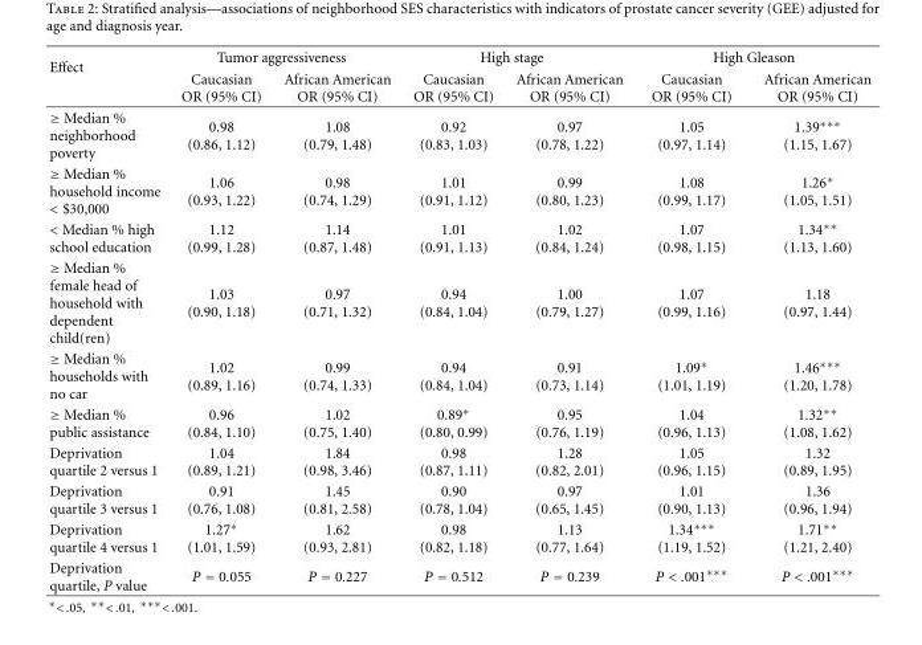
<table><thead><tr><td rowspan="2">Effect</td><td colspan="2">Tumor aggressiveness</td><td colspan="2">High stage</td><td colspan="2">High Gleason</td></tr><tr><td>Caucasian OR (95% CI)</td><td>African American OR (95% CI)</td><td>Caucasian OR (95% CI)</td><td>African American OR (95% CI)</td><td>Caucasian OR (95% CI)</td><td>African American OR (95% CI)</td></tr></thead><tbody><tr><td>≥ Median % neighborhood poverty</td><td>0.98 (0.86, 1.12)</td><td>1.08 (0.79, 1.48)</td><td>0.92 (0.83, 1.03)</td><td>0.97 (0.78, 1.22)</td><td>1.05 (0.97, 1.14)</td><td>1.39∗∗∗ (1.15, 1.67)</td></tr><tr><td>≥ Median % household income &lt; $30,000</td><td>1.06 (0.93, 1.22)</td><td>0.98 (0.74, 1.29)</td><td>1.01 (0.91, 1.12)</td><td>0.99 (0.80, 1.23)</td><td>1.08 (0.99, 1.17)</td><td>1.26∗ (1.05, 1.51)</td></tr><tr><td>&lt; Median % high school education</td><td>1.12 (0.99, 1.28)</td><td>1.14 (0.87, 1.48)</td><td>1.01 (0.91, 1.13)</td><td>1.02 (0.84, 1.24)</td><td>1.07 (0.98, 1.15)</td><td>1.34∗∗ (1.13, 1.60)</td></tr><tr><td>≥ Median % female head of household with dependent child(ren)</td><td>1.03 (0.90, 1.18)</td><td>0.97 (0.71, 1.32)</td><td>0.94 (0.84, 1.04)</td><td>1.00 (0.79, 1.27)</td><td>1.07 (0.99, 1.16)</td><td>1.18 (0.97, 1.44)</td></tr><tr><td>≥ Median % households with no car</td><td>1.02 (0.89, 1.16)</td><td>0.99 (0.74, 1.33)</td><td>0.94 (0.84, 1.04)</td><td>0.91 (0.73, 1.14)</td><td>1.09∗ (1.01, 1.19)</td><td>1.46∗∗∗ (1.20, 1.78)</td></tr><tr><td>≥ Median % public assistance</td><td>0.96 (0.84, 1.10)</td><td>1.02 (0.75, 1.40)</td><td>0.89∗ (0.80, 0.99)</td><td>0.95 (0.76, 1.19)</td><td>1.04 (0.96, 1.13)</td><td>1.32∗∗ (1.08, 1.62)</td></tr><tr><td>Deprivation quartile 2 versus 1</td><td>1.04 (0.89, 1.21)</td><td>1.84 (0.98, 3.46)</td><td>0.98 (0.87, 1.11)</td><td>1.28 (0.82, 2.01)</td><td>1.05 (0.96, 1.15)</td><td>1.32 (0.89, 1.95)</td></tr><tr><td>Deprivation quartile 3 versus 1</td><td>0.91 (0.76, 1.08)</td><td>1.45 (0.81, 2.58)</td><td>0.90 (0.78, 1.04)</td><td>0.97 (0.65, 1.45)</td><td>1.01 (0.90, 1.13)</td><td>1.36 (0.96, 1.94)</td></tr><tr><td>Deprivation quartile 4 versus 1</td><td>1.27∗ (1.01, 1.59)</td><td>1.62 (0.93, 2.81)</td><td>0.98 (0.82, 1.18)</td><td>1.13 (0.77, 1.64)</td><td>1.34∗∗∗ (1.19, 1.52)</td><td>1.71∗∗ (1.21, 2.40)</td></tr><tr><td>Deprivation quartile, P value</td><td>P = 0.055</td><td>P = 0.227</td><td>P = 0.512</td><td>P = 0.239</td><td>P &lt; .001∗∗∗</td><td>P &lt; .001∗∗∗</td></tr></tbody></table>